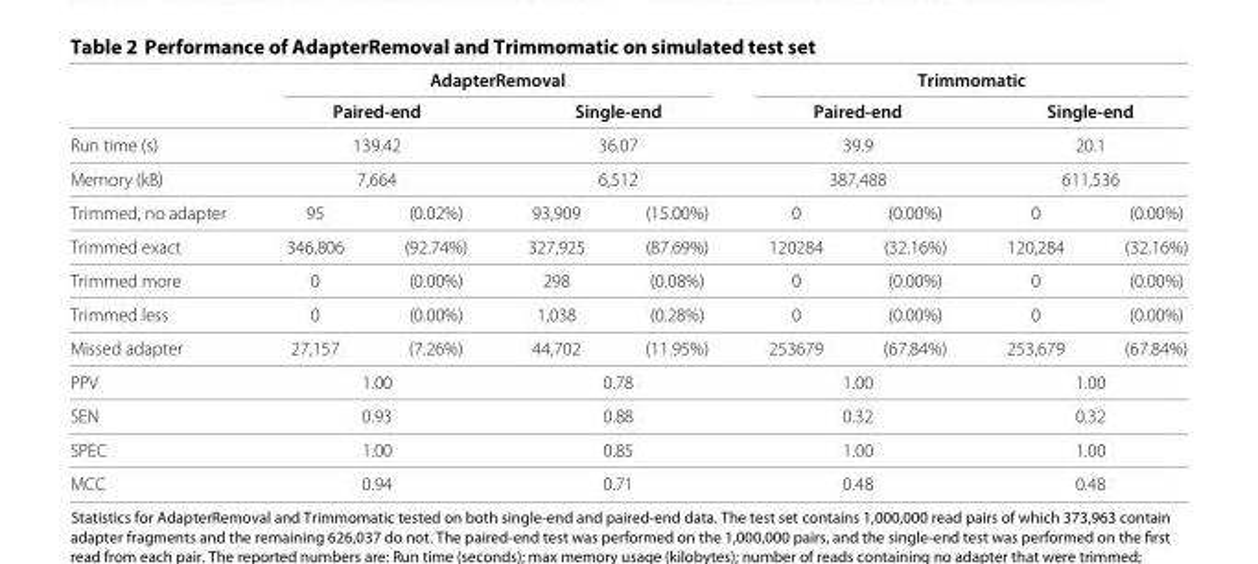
<table><thead><tr><td></td><td colspan="4">AdapterRemoval</td><td colspan="4">Trimmomatic</td></tr></thead><tbody><tr><td></td><td colspan="2">Paired-end</td><td colspan="2">Single-end</td><td colspan="2">Paired-end</td><td colspan="2">Single-end</td></tr><tr><td>Run time (s)</td><td colspan="2">139.42</td><td colspan="2">36.07</td><td colspan="2">39.9</td><td colspan="2">20.1</td></tr><tr><td>Memory (kB)</td><td colspan="2">7,664</td><td colspan="2">6,512</td><td colspan="2">387,488</td><td colspan="2">611,536</td></tr><tr><td>Trimmed, no adapter</td><td>95</td><td>(0.02%)</td><td>93,909</td><td>(15.00%)</td><td>0</td><td>(0.00%)</td><td>0</td><td>(0.00%)</td></tr><tr><td>Trimmed exact</td><td>346,806</td><td>(92.74%)</td><td>327,925</td><td>(87.69%)</td><td>120284</td><td>(32.16%)</td><td>120,284</td><td>(32.16%)</td></tr><tr><td>Trimmed more</td><td>0</td><td>(0.00%)</td><td>298</td><td>(0.08%)</td><td>0</td><td>(0.00%)</td><td>0</td><td>(0.00%)</td></tr><tr><td>Trimmed less</td><td>0</td><td>(0.00%)</td><td>1,038</td><td>(0.28%)</td><td>0</td><td>(0.00%)</td><td>0</td><td>(0.00%)</td></tr><tr><td>Missed adapter</td><td>27,157</td><td>(7.26%)</td><td>44,702</td><td>(11.95%)</td><td>253679</td><td>(67.84%)</td><td>253,679</td><td>(67.84%)</td></tr><tr><td>PPV</td><td colspan="2">1.00</td><td colspan="2">0.78</td><td colspan="2">1.00</td><td colspan="2">1.00</td></tr><tr><td>SEN</td><td colspan="2">0.93</td><td colspan="2">0.88</td><td colspan="2">0.32</td><td colspan="2">0.32</td></tr><tr><td>SPEC</td><td colspan="2">1.00</td><td colspan="2">0.85</td><td colspan="2">1.00</td><td colspan="2">1.00</td></tr><tr><td>MCC</td><td colspan="2">0.94</td><td colspan="2">0.71</td><td colspan="2">0.48</td><td colspan="2">0.48</td></tr></tbody></table>